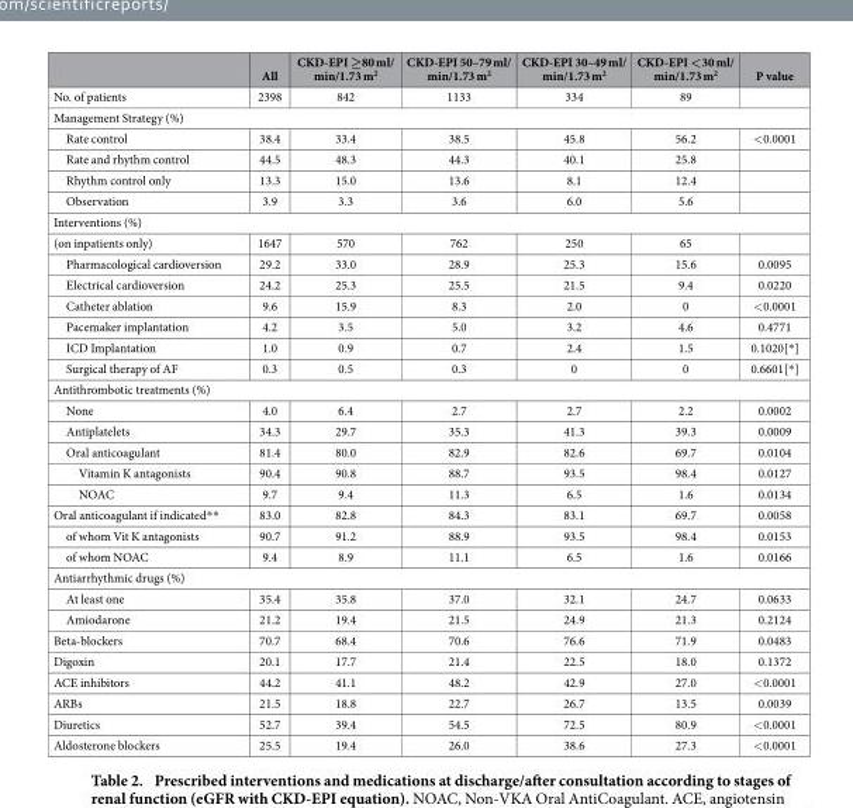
<table><thead><tr><td></td><td>All</td><td>CKD-EPI ≥80 ml/ min/1.73 m<sup>2</sup></td><td>CKD-EPI 50–79 ml/ min/1.73 m<sup>2</sup></td><td>CKD-EPI 30–49 ml/ min/1.73 m<sup>2</sup></td><td>CKD-EPI &lt;30 ml/ min/1.73 m<sup>2</sup></td><td>P value</td></tr></thead><tbody><tr><td>No. of patients</td><td>2398</td><td>842</td><td>1133</td><td>334</td><td>89</td><td></td></tr><tr><td colspan="7">Management Strategy (%)</td></tr><tr><td>Rate control</td><td>38.4</td><td>33.4</td><td>38.5</td><td>45.8</td><td>56.2</td><td>&lt; 0.0001</td></tr><tr><td>Rate and rhythm control</td><td>44.5</td><td>48.3</td><td>44.3</td><td>40.1</td><td>25.8</td><td></td></tr><tr><td>Rhythm control only</td><td>13.3</td><td>15.0</td><td>13.6</td><td>8.1</td><td>12.4</td><td></td></tr><tr><td>Observation</td><td>3.9</td><td>3.3</td><td>3.6</td><td>6.0</td><td>5.6</td><td></td></tr><tr><td colspan="7">Interventions (%)</td></tr><tr><td>(on inpatients only)</td><td>1647</td><td>570</td><td>762</td><td>250</td><td>65</td><td></td></tr><tr><td>Pharmacological cardioversion</td><td>29.2</td><td>33.0</td><td>28.9</td><td>25.3</td><td>15.6</td><td>0.0095</td></tr><tr><td>Electrical cardioversion</td><td>24.2</td><td>25.3</td><td>25.5</td><td>21.5</td><td>9.4</td><td>0.0220</td></tr><tr><td>Catheter ablation</td><td>9.6</td><td>15.9</td><td>8.3</td><td>2.0</td><td>0</td><td>&lt; 0.0001</td></tr><tr><td>Pacemaker implantation</td><td>4.2</td><td>3.5</td><td>5.0</td><td>3.2</td><td>4.6</td><td>0.4771</td></tr><tr><td>ICD Implantation</td><td>1.0</td><td>0.9</td><td>0.7</td><td>2.4</td><td>1.5</td><td>0.1020[* ]</td></tr><tr><td>Surgical therapy of AF</td><td>0.3</td><td>0.5</td><td>0.3</td><td>0</td><td>0</td><td>0.6601[* ]</td></tr><tr><td colspan="7">Antithrombotic treatments (%)</td></tr><tr><td>None</td><td>4.0</td><td>6.4</td><td>2.7</td><td>2.7</td><td>2.2</td><td>0.0002</td></tr><tr><td>Antiplatelets</td><td>34.3</td><td>29.7</td><td>35.3</td><td>41.3</td><td>39.3</td><td>0.0009</td></tr><tr><td>Oral anticoagulant</td><td>81.4</td><td>80.0</td><td>82.9</td><td>82.6</td><td>69.7</td><td>0.0104</td></tr><tr><td>Vitamin K antagonists</td><td>90.4</td><td>90.8</td><td>88.7</td><td>93.5</td><td>98.4</td><td>0.0127</td></tr><tr><td>NOAC</td><td>9.7</td><td>9.4</td><td>11.3</td><td>6.5</td><td>1.6</td><td>0.0134</td></tr><tr><td>Oral anticoagulant if indicated* *</td><td>83.0</td><td>82.8</td><td>84.3</td><td>83.1</td><td>69.7</td><td>0.0058</td></tr><tr><td>of whom Vit K antagonists</td><td>90.7</td><td>91.2</td><td>88.9</td><td>93.5</td><td>98.4</td><td>0.0153</td></tr><tr><td>of whom NOAC</td><td>9.4</td><td>8.9</td><td>11.1</td><td>6.5</td><td>1.6</td><td>0.0166</td></tr><tr><td colspan="7">Antiarrhythmic drugs (%)</td></tr><tr><td>At least one</td><td>35.4</td><td>35.8</td><td>37.0</td><td>32.1</td><td>24.7</td><td>0.0633</td></tr><tr><td>Amiodarone</td><td>21.2</td><td>19.4</td><td>21.5</td><td>24.9</td><td>21.3</td><td>0.2124</td></tr><tr><td>Beta-blockers</td><td>70.7</td><td>68.4</td><td>70.6</td><td>76.6</td><td>71.9</td><td>0.0483</td></tr><tr><td>Digoxin</td><td>20.1</td><td>17.7</td><td>21.4</td><td>22.5</td><td>18.0</td><td>0.1372</td></tr><tr><td>ACE inhibitors</td><td>44.2</td><td>41.1</td><td>48.2</td><td>42.9</td><td>27.0</td><td>&lt; 0.0001</td></tr><tr><td>ARBs</td><td>21.5</td><td>18.8</td><td>22.7</td><td>26.7</td><td>13.5</td><td>0.0039</td></tr><tr><td>Diuretics</td><td>52.7</td><td>39.4</td><td>54.5</td><td>72.5</td><td>80.9</td><td>&lt; 0.0001</td></tr><tr><td>Aldosterone blockers</td><td>25.5</td><td>19.4</td><td>26.0</td><td>38.6</td><td>27.3</td><td>&lt; 0.0001</td></tr></tbody></table>